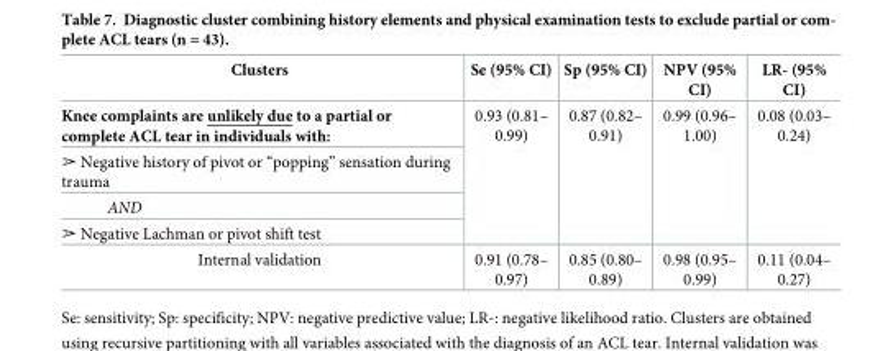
<table><thead><tr><td>Clusters</td><td>Se (95% CI)</td><td>Sp (95% CI)</td><td>NPV (95% CI)</td><td>LR- (95% CI)</td></tr></thead><tbody><tr><td>Knee complaints are unlikely due to a partial or complete ACL tear in individuals with:</td><td rowspan="4">0.93 (0.81– 0.99)</td><td rowspan="4">0.87 (0.82– 0.91)</td><td rowspan="4">0.99 (0.96– 1.00)</td><td rowspan="4">0.08 (0.03– 0.24)</td></tr><tr><td>➢ Negative history of pivot or “popping” sensation during trauma</td></tr><tr><td>AND</td></tr><tr><td>➢ Negative Lachman or pivot shift test</td></tr><tr><td>Internal validation</td><td>0.91 (0.78– 0.97)</td><td>0.85 (0.80– 0.89)</td><td>0.98 (0.95– 0.99)</td><td>0.11 (0.04– 0.27)</td></tr></tbody></table>